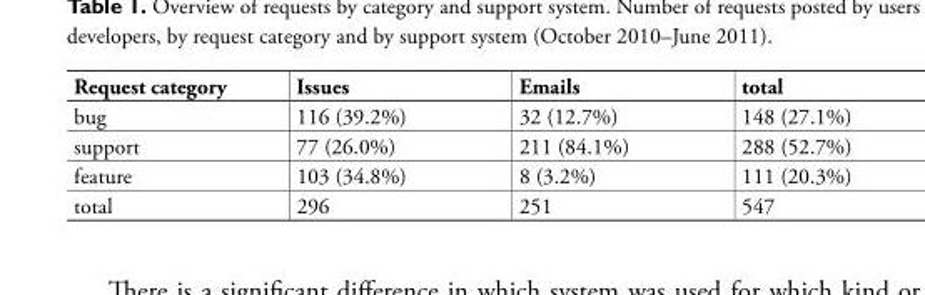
<table><thead><tr><td>Request category</td><td>Issues</td><td>Emails</td><td>total</td></tr></thead><tbody><tr><td>bug</td><td>116 (39.2%)</td><td>32 (12.7%)</td><td>148 (27.1%)</td></tr><tr><td>support</td><td>77 (26.0%)</td><td>211 (84.1%)</td><td>288 (52.7%)</td></tr><tr><td>feature</td><td>103 (34.8%)</td><td>8 (3.2%)</td><td>111 (20.3%)</td></tr><tr><td>total</td><td>296</td><td>251</td><td>547</td></tr></tbody></table>